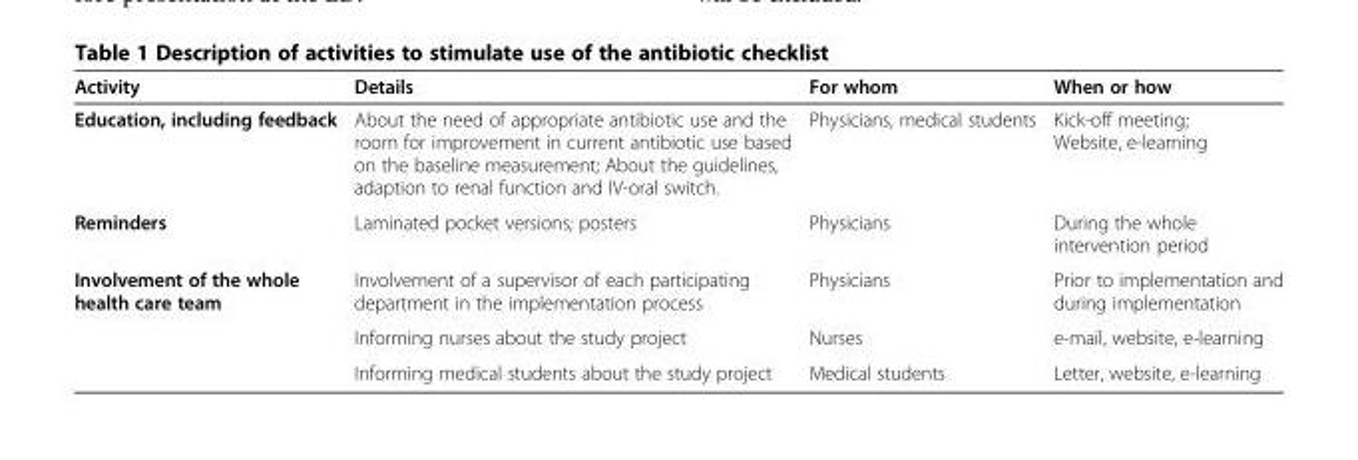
<table><thead><tr><td>Activity</td><td>Details</td><td>For whom</td><td>When or how</td></tr></thead><tbody><tr><td>Education, including feedback</td><td>About the need of appropriate antibiotic use and the room for improvement in current antibiotic use based on the baseline measurement; About the guidelines, adaption to renal function and IV-oral switch.</td><td>Physicians, medical students</td><td>Kick-off meeting; Website, e-learning</td></tr><tr><td>Reminders</td><td>Laminated pocket versions; posters</td><td>Physicians</td><td>During the whole intervention period</td></tr><tr><td rowspan="3">Involvement of the whole health care team</td><td>Involvement of a supervisor of each participating department in the implementation process</td><td>Physicians</td><td>Prior to implementation and during implementation</td></tr><tr><td>Informing nurses about the study project</td><td>Nurses</td><td>e-mail, website, e-learning</td></tr><tr><td>Informing medical students about the study project</td><td>Medical students</td><td>Letter, website, e-learning</td></tr></tbody></table>